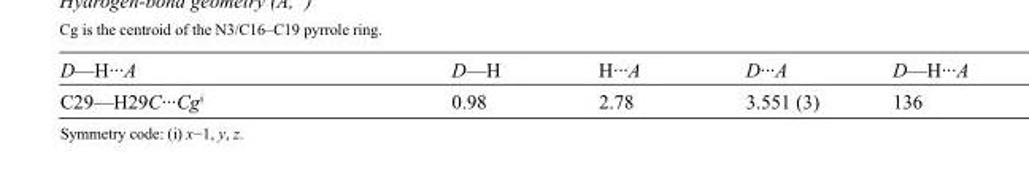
<table><tbody><tr><td>D—H···A</td><td>D—H</td><td>H···A</td><td>D···A</td><td>D—H···A</td></tr><tr><td>C29—H29C···Cg<sup>i</sup></td><td>0.98</td><td>2.78</td><td>3.551 (3)</td><td>136</td></tr></tbody></table>